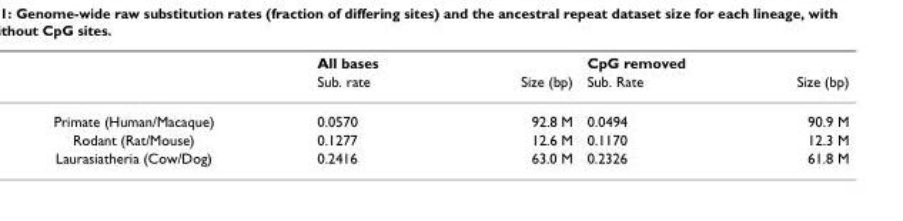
<table><thead><tr><td rowspan="2"></td><td colspan="2">All bases</td><td colspan="2">CpG removed</td></tr><tr><td>Sub. rate</td><td>Size (bp)</td><td>Sub. Rate</td><td>Size (bp)</td></tr></thead><tbody><tr><td>Primate (Human/Macaque)</td><td>0.0570</td><td>92.8 M</td><td>0.0494</td><td>90.9 M</td></tr><tr><td>Rodant (Rat/Mouse)</td><td>0.1277</td><td>12.6 M</td><td>0.1170</td><td>12.3 M</td></tr><tr><td>Laurasiatheria (Cow/Dog)</td><td>0.2416</td><td>63.0 M</td><td>0.2326</td><td>61.8 M</td></tr></tbody></table>